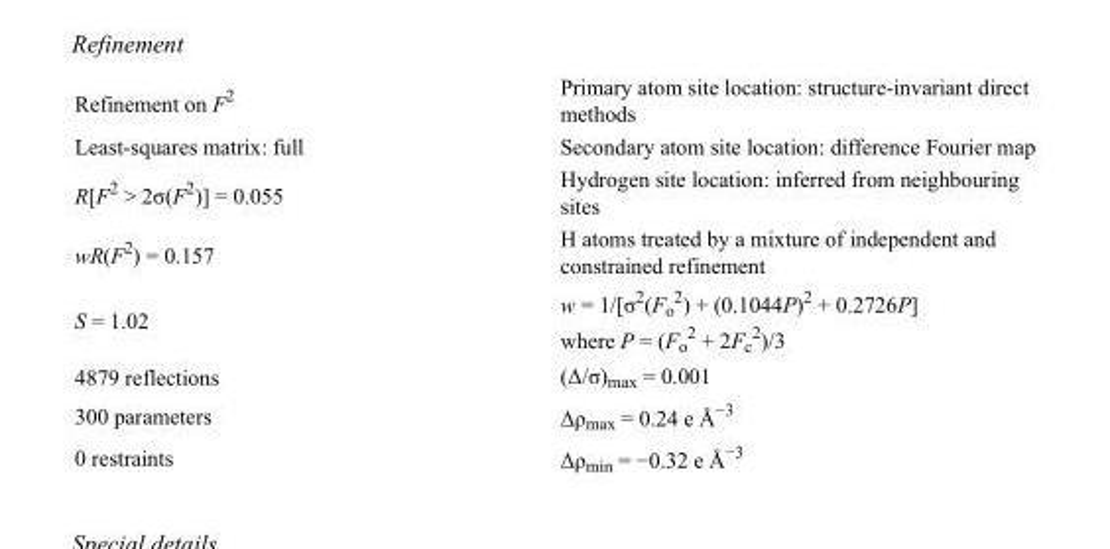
<table><tbody><tr><td>Refinement on F<sup>2</sup></td><td>Primary atom site location: structure-invariant direct methods</td></tr><tr><td>Least-squares matrix: full</td><td>Secondary atom site location: difference Fourier map</td></tr><tr><td>R[F<sup>2</sup> &gt; 2σ(F<sup>2</sup>)] = 0.055</td><td>Hydrogen site location: inferred from neighbouring sites</td></tr><tr><td>wR(F<sup>2</sup>) = 0.157</td><td>H atoms treated by a mixture of independent and constrained refinement</td></tr><tr><td>S = 1.02</td><td>w = 1/[σ<sup>2</sup>(F<sub>o</sub> <sup>2</sup>) + (0.1044P)<sup>2</sup> + 0.2726P] where P = (F<sub>o</sub> <sup>2</sup> + 2F<sub>c</sub> <sup>2</sup>)/3</td></tr><tr><td>4879 reflections</td><td>(Δ/σ)<sub>max</sub> = 0.001</td></tr><tr><td>300 parameters</td><td>Δρ<sub>max</sub> = 0.24 e Å<sup>−3</sup></td></tr><tr><td>0 restraints</td><td>Δρ<sub>min</sub> = −0.32 e Å<sup>−3</sup></td></tr></tbody></table>